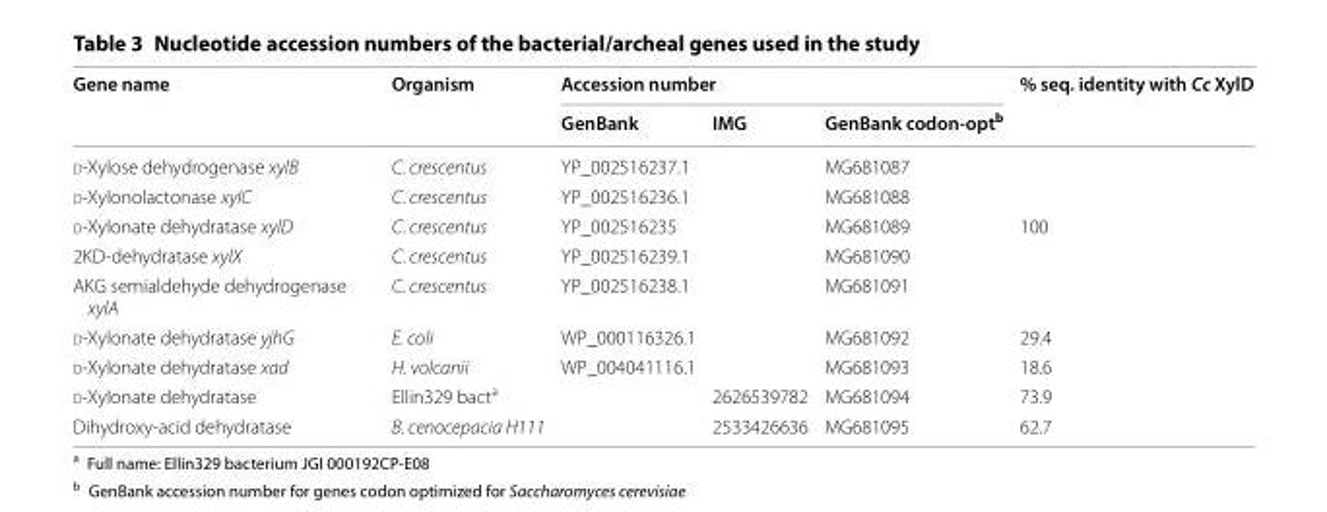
<table><thead><tr><td rowspan="2">Gene name</td><td rowspan="2">Organism</td><td colspan="3">Accession number</td><td rowspan="2">% seq. identity with Cc XylD</td></tr><tr><td>GenBank</td><td>IMG</td><td>GenBank codon‑opt<sup>b</sup></td></tr></thead><tbody><tr><td>d‑Xylose dehydrogenase xylB</td><td>C. crescentus</td><td>YP_002516237.1</td><td></td><td>MG681087</td><td></td></tr><tr><td>d‑Xylonolactonase xylC</td><td>C. crescentus</td><td>YP_002516236.1</td><td></td><td>MG681088</td><td></td></tr><tr><td>d‑Xylonate dehydratase xylD</td><td>C. crescentus</td><td>YP_002516235</td><td></td><td>MG681089</td><td>100</td></tr><tr><td>2KD‑dehydratase xylX</td><td>C. crescentus</td><td>YP_002516239.1</td><td></td><td>MG681090</td><td></td></tr><tr><td>AKG semialdehyde dehydrogenase xylA</td><td>C. crescentus</td><td>YP_002516238.1</td><td></td><td>MG681091</td><td></td></tr><tr><td>d‑Xylonate dehydratase yjhG</td><td>E. coli</td><td>WP_000116326.1</td><td></td><td>MG681092</td><td>29.4</td></tr><tr><td>d‑Xylonate dehydratase xad</td><td>H. volcanii</td><td>WP_004041116.1</td><td></td><td>MG681093</td><td>18.6</td></tr><tr><td>d‑Xylonate dehydratase</td><td>Ellin329 bact<sup>a</sup></td><td></td><td>2626539782</td><td>MG681094</td><td>73.9</td></tr><tr><td>Dihydroxy‑acid dehydratase</td><td>B. cenocepacia H111</td><td></td><td>2533426636</td><td>MG681095</td><td>62.7</td></tr></tbody></table>